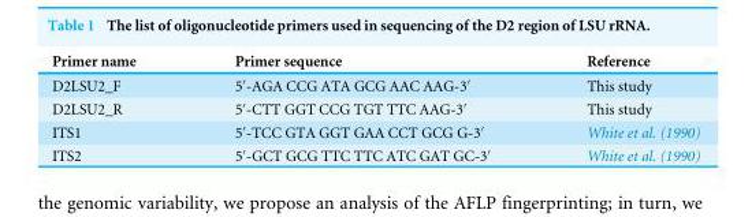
<table><thead><tr><td>Primer name</td><td>Primer sequence</td><td>Reference</td></tr></thead><tbody><tr><td>D2LSU2_F</td><td>5′-AGA CCG ATA GCG AAC AAG-3′</td><td>This study</td></tr><tr><td>D2LSU2_R</td><td>5′-CTT GGT CCG TGT TTC AAG-3′</td><td>This study</td></tr><tr><td>ITS1</td><td>5′-TCC GTA GGT GAA CCT GCG G-3′</td><td>White et al. (1990)</td></tr><tr><td>ITS2</td><td>5′-GCT GCG TTC TTC ATC GAT GC-3′</td><td>White et al. (1990)</td></tr></tbody></table>